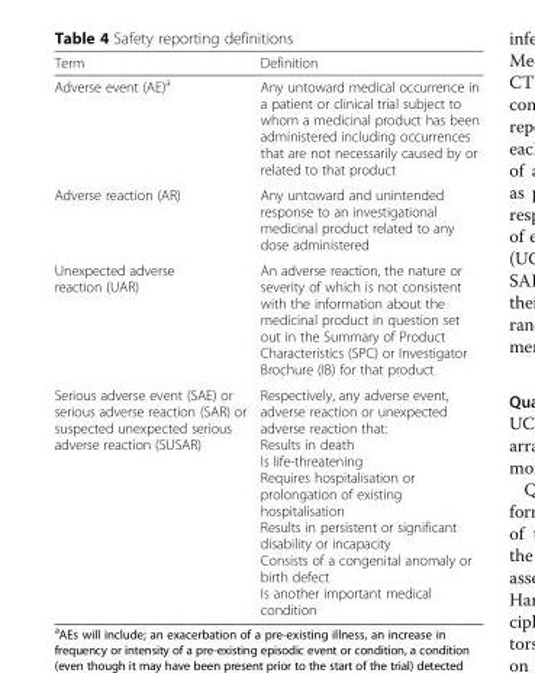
<table><thead><tr><td>Term</td><td>Definition</td></tr></thead><tbody><tr><td>Adverse event (AE)<sup>a</sup></td><td>Any untoward medical occurrence in a patient or clinical trial subject to whom a medicinal product has been administered including occurrences that are not necessarily caused by or related to that product</td></tr><tr><td>Adverse reaction (AR)</td><td>Any untoward and unintended response to an investigational medicinal product related to any dose administered</td></tr><tr><td>Unexpected adverse reaction (UAR)</td><td>An adverse reaction, the nature or severity of which is not consistent with the information about the medicinal product in question set out in the Summary of Product Characteristics (SPC) or Investigator Brochure (IB) for that product</td></tr><tr><td>Serious adverse event (SAE) or serious adverse reaction (SAR) or suspected unexpected serious adverse reaction (SUSAR)</td><td>Respectively, any adverse event, adverse reaction or unexpected adverse reaction that: Results in death Is life-threatening Requires hospitalisation or prolongation of existing hospitalisation Results in persistent or significant disability or incapacity Consists of a congenital anomaly or birth defect Is another important medical condition</td></tr></tbody></table>